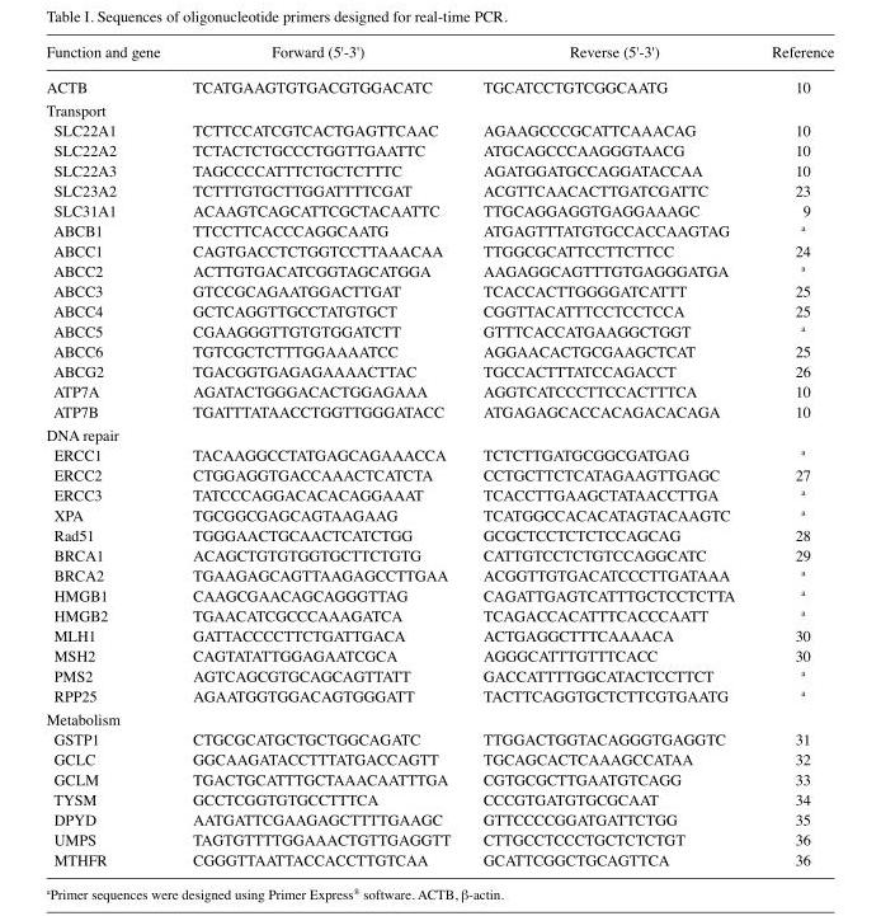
<table><thead><tr><td>Function and gene</td><td>Forward (5&#x27;-3&#x27;)</td><td>Reverse (5&#x27;-3&#x27;)</td><td>Reference</td></tr></thead><tbody><tr><td>ACTB</td><td>TCATGAAGTGTGACGTGGACATC</td><td>TGCATCCTGTCGGCAATG</td><td>10</td></tr><tr><td colspan="4">Transport</td></tr><tr><td>SLC22A1</td><td>TCTTCCATCGTCACTGAGTTCAAC</td><td>AGAAGCCCGCATTCAAACAG</td><td>10</td></tr><tr><td>SLC22A2</td><td>TCTACTCTGCCCTGGTTGAATTC</td><td>ATGCAGCCCAAGGGTAACG</td><td>10</td></tr><tr><td>SLC22A3</td><td>TAGCCCCATTTCTGCTCTTTC</td><td>AGATGGATGCCAGGATACCAA</td><td>10</td></tr><tr><td>SLC23A2</td><td>TCTTTGTGCTTGGATTTTCGAT</td><td>ACGTTCAACACTTGATCGATTC</td><td>23</td></tr><tr><td>SLC31A1</td><td>ACAAGTCAGCATTCGCTACAATTC</td><td>TTGCAGGAGGTGAGGAAAGC</td><td>9</td></tr><tr><td>ABCB1</td><td>TTCCTTCACCCAGGCAATG</td><td>ATGAGTTTATGTGCCACCAAGTAG</td><td><sup>a</sup></td></tr><tr><td>ABCC1</td><td>CAGTGACCTCTGGTCCTTAAACAA</td><td>TTGGCGCATTCCTTCTTCC</td><td>24</td></tr><tr><td>ABCC2</td><td>ACTTGTGACATCGGTAGCATGGA</td><td>AAGAGGCAGTTTGTGAGGGATGA</td><td><sup>a</sup></td></tr><tr><td>ABCC3</td><td>GTCCGCAGAATGGACTTGAT</td><td>TCACCACTTGGGGATCATTT</td><td>25</td></tr><tr><td>ABCC4</td><td>GCTCAGGTTGCCTATGTGCT</td><td>CGGTTACATTTCCTCCTCCA</td><td>25</td></tr><tr><td>ABCC5</td><td>CGAAGGGTTGTGTGGATCTT</td><td>GTTTCACCATGAAGGCTGGT</td><td><sup>a</sup></td></tr><tr><td>ABCC6</td><td>TGTCGCTCTTTGGAAAATCC</td><td>AGGAACACTGCGAAGCTCAT</td><td>25</td></tr><tr><td>ABCG2</td><td>TGACGGTGAGAGAAAACTTAC</td><td>TGCCACTTTATCCAGACCT</td><td>26</td></tr><tr><td>ATP7A</td><td>AGATACTGGGACACTGGAGAAA</td><td>AGGTCATCCCTTCCACTTTCA</td><td>10</td></tr><tr><td>ATP7B</td><td>TGATTTATAACCTGGTTGGGATACC</td><td>ATGAGAGCACCACAGACACAGA</td><td>10</td></tr><tr><td colspan="4">DNA repair</td></tr><tr><td>ERCC1</td><td>TACAAGGCCTATGAGCAGAAACCA</td><td>TCTCTTGATGCGGCGATGAG</td><td><sup>a</sup></td></tr><tr><td>ERCC2</td><td>CTGGAGGTGACCAAACTCATCTA</td><td>CCTGCTTCTCATAGAAGTTGAGC</td><td>27</td></tr><tr><td>ERCC3</td><td>TATCCCAGGACACACAGGAAAT</td><td>TCACCTTGAAGCTATAACCTTGA</td><td><sup>a</sup></td></tr><tr><td>XPA</td><td>TGCGGCGAGCAGTAAGAAG</td><td>TCATGGCCACACATAGTACAAGTC</td><td><sup>a</sup></td></tr><tr><td>Rad51</td><td>TGGGAACTGCAACTCATCTGG</td><td>GCGCTCCTCTCTCCAGCAG</td><td>28</td></tr><tr><td>BRCA1</td><td>ACAGCTGTGTGGTGCTTCTGTG</td><td>CATTGTCCTCTGTCCAGGCATC</td><td>29</td></tr><tr><td>BRCA2</td><td>TGAAGAGCAGTTAAGAGCCTTGAA</td><td>ACGGTTGTGACATCCCTTGATAAA</td><td><sup>a</sup></td></tr><tr><td>HMGB1</td><td>CAAGCGAACAGCAGGGTTAG</td><td>CAGATTGAGTCATTTGCTCCTCTTA</td><td><sup>a</sup></td></tr><tr><td>HMGB2</td><td>TGAACATCGCCCAAAGATCA</td><td>TCAGACCACATTTCACCCAATT</td><td><sup>a</sup></td></tr><tr><td>MLH1</td><td>GATTACCCCTTCTGATTGACA</td><td>ACTGAGGCTTTCAAAACA</td><td>30</td></tr><tr><td>MSH2</td><td>CAGTATATTGGAGAATCGCA</td><td>AGGGCATTTGTTTCACC</td><td>30</td></tr><tr><td>PMS2</td><td>AGTCAGCGTGCAGCAGTTATT</td><td>GACCATTTTGGCATACTCCTTCT</td><td><sup>a</sup></td></tr><tr><td>RPP25</td><td>AGAATGGTGGACAGTGGGATT</td><td>TACTTCAGGTGCTCTTCGTGAATG</td><td><sup>a</sup></td></tr><tr><td colspan="4">Metabolism</td></tr><tr><td>GSTP1</td><td>CTGCGCATGCTGCTGGCAGATC</td><td>TTGGACTGGTACAGGGTGAGGTC</td><td>31</td></tr><tr><td>GCLC</td><td>GGCAAGATACCTTTATGACCAGTT</td><td>TGCAGCACTCAAAGCCATAA</td><td>32</td></tr><tr><td>GCLM</td><td>TGACTGCATTTGCTAAACAATTTGA</td><td>CGTGCGCTTGAATGTCAGG</td><td>33</td></tr><tr><td>TYSM</td><td>GCCTCGGTGTGCCTTTCA</td><td>CCCGTGATGTGCGCAAT</td><td>34</td></tr><tr><td>DPYD</td><td>AATGATTCGAAGAGCTTTTGAAGC</td><td>GTTCCCCGGATGATTCTGG</td><td>35</td></tr><tr><td>UMPS</td><td>TAGTGTTTTGGAAACTGTTGAGGTT</td><td>CTTGCCTCCCTGCTCTCTGT</td><td>36</td></tr><tr><td>MTHFR</td><td>CGGGTTAATTACCACCTTGTCAA</td><td>GCATTCGGCTGCAGTTCA</td><td>36</td></tr></tbody></table>